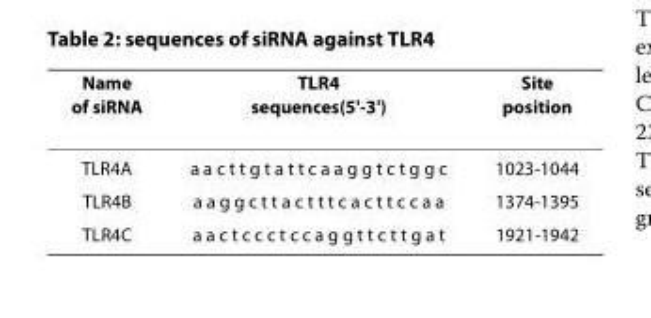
<table><thead><tr><td>Name of siRNA</td><td>TLR4 sequences(5&#x27;-3&#x27;)</td><td>Site position</td></tr></thead><tbody><tr><td>TLR4A</td><td>a a c t t g t a t t c a a g g t c t g g c</td><td>1023-1044</td></tr><tr><td>TLR4B</td><td>a a g g c t t a c t t t c a c t t c c a a</td><td>1374-1395</td></tr><tr><td>TLR4C</td><td>a a c t c c c t c c a g g t t c t t g a t</td><td>1921-1942</td></tr></tbody></table>